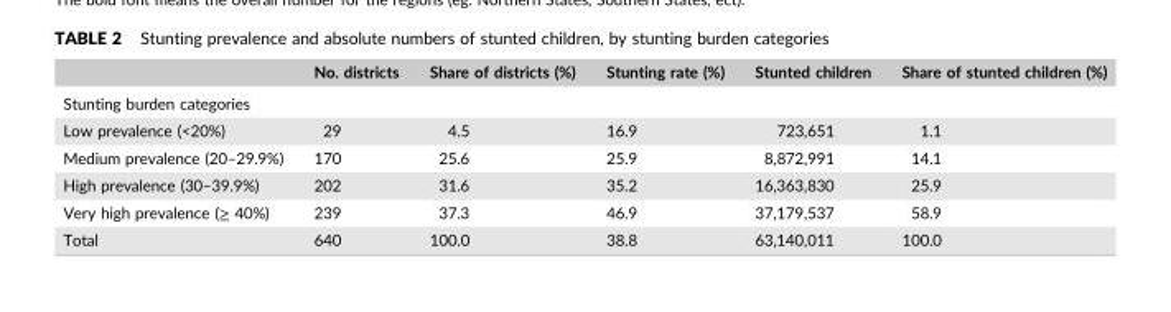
<table><thead><tr><td></td><td>No. districts</td><td>Share of districts (%)</td><td>Stunting rate (%)</td><td>Stunted children</td><td>Share of stunted children (%)</td></tr></thead><tbody><tr><td colspan="6">Stunting burden categories</td></tr><tr><td>Low prevalence (&lt;20%)</td><td>29</td><td>4.5</td><td>16.9</td><td>723,651</td><td>1.1</td></tr><tr><td>Medium prevalence (20–29.9%)</td><td>170</td><td>25.6</td><td>25.9</td><td>8,872,991</td><td>14.1</td></tr><tr><td>High prevalence (30–39.9%)</td><td>202</td><td>31.6</td><td>35.2</td><td>16,363,830</td><td>25.9</td></tr><tr><td>Very high prevalence (≥ 40%)</td><td>239</td><td>37.3</td><td>46.9</td><td>37,179,537</td><td>58.9</td></tr><tr><td>Total</td><td>640</td><td>100.0</td><td>38.8</td><td>63,140,011</td><td>100.0</td></tr></tbody></table>